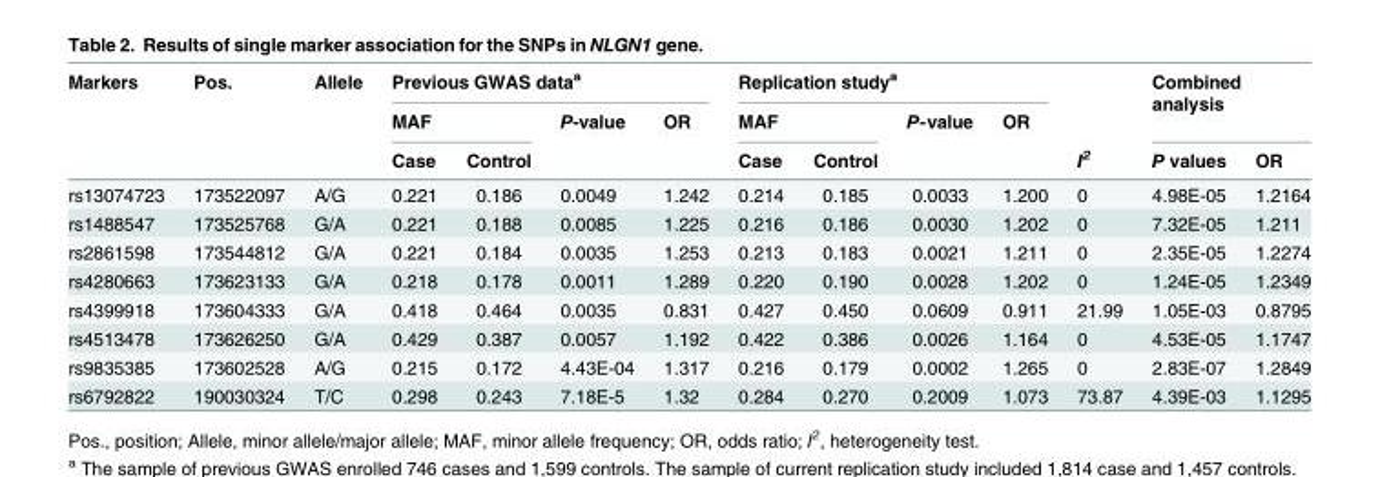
<table><thead><tr><td rowspan="3">Markers</td><td rowspan="3">Pos.</td><td rowspan="3">Allele</td><td colspan="4">Previous GWAS data<sup>a</sup></td><td colspan="4">Replication study<sup>a</sup></td><td rowspan="3">I<sup>2</sup></td><td rowspan="2" colspan="2">Combined analysis</td></tr><tr><td colspan="2">MAF</td><td rowspan="2">P-value</td><td rowspan="2">OR</td><td colspan="2">MAF</td><td rowspan="2">P-value</td><td rowspan="2">OR</td></tr><tr><td>Case</td><td>Control</td><td>Case</td><td>Control</td><td>P values</td><td>OR</td></tr></thead><tbody><tr><td>rs13074723</td><td>173522097</td><td>A/G</td><td>0.221</td><td>0.186</td><td>0.0049</td><td>1.242</td><td>0.214</td><td>0.185</td><td>0.0033</td><td>1.200</td><td>0</td><td>4.98E-05</td><td>1.2164</td></tr><tr><td>rs1488547</td><td>173525768</td><td>G/A</td><td>0.221</td><td>0.188</td><td>0.0085</td><td>1.225</td><td>0.216</td><td>0.186</td><td>0.0030</td><td>1.202</td><td>0</td><td>7.32E-05</td><td>1.211</td></tr><tr><td>rs2861598</td><td>173544812</td><td>G/A</td><td>0.221</td><td>0.184</td><td>0.0035</td><td>1.253</td><td>0.213</td><td>0.183</td><td>0.0021</td><td>1.211</td><td>0</td><td>2.35E-05</td><td>1.2274</td></tr><tr><td>rs4280663</td><td>173623133</td><td>G/A</td><td>0.218</td><td>0.178</td><td>0.0011</td><td>1.289</td><td>0.220</td><td>0.190</td><td>0.0028</td><td>1.202</td><td>0</td><td>1.24E-05</td><td>1.2349</td></tr><tr><td>rs4399918</td><td>173604333</td><td>G/A</td><td>0.418</td><td>0.464</td><td>0.0035</td><td>0.831</td><td>0.427</td><td>0.450</td><td>0.0609</td><td>0.911</td><td>21.99</td><td>1.05E-03</td><td>0.8795</td></tr><tr><td>rs4513478</td><td>173626250</td><td>G/A</td><td>0.429</td><td>0.387</td><td>0.0057</td><td>1.192</td><td>0.422</td><td>0.386</td><td>0.0026</td><td>1.164</td><td>0</td><td>4.53E-05</td><td>1.1747</td></tr><tr><td>rs9835385</td><td>173602528</td><td>A/G</td><td>0.215</td><td>0.172</td><td>4.43E-04</td><td>1.317</td><td>0.216</td><td>0.179</td><td>0.0002</td><td>1.265</td><td>0</td><td>2.83E-07</td><td>1.2849</td></tr><tr><td>rs6792822</td><td>190030324</td><td>T/C</td><td>0.298</td><td>0.243</td><td>7.18E-5</td><td>1.32</td><td>0.284</td><td>0.270</td><td>0.2009</td><td>1.073</td><td>73.87</td><td>4.39E-03</td><td>1.1295</td></tr></tbody></table>